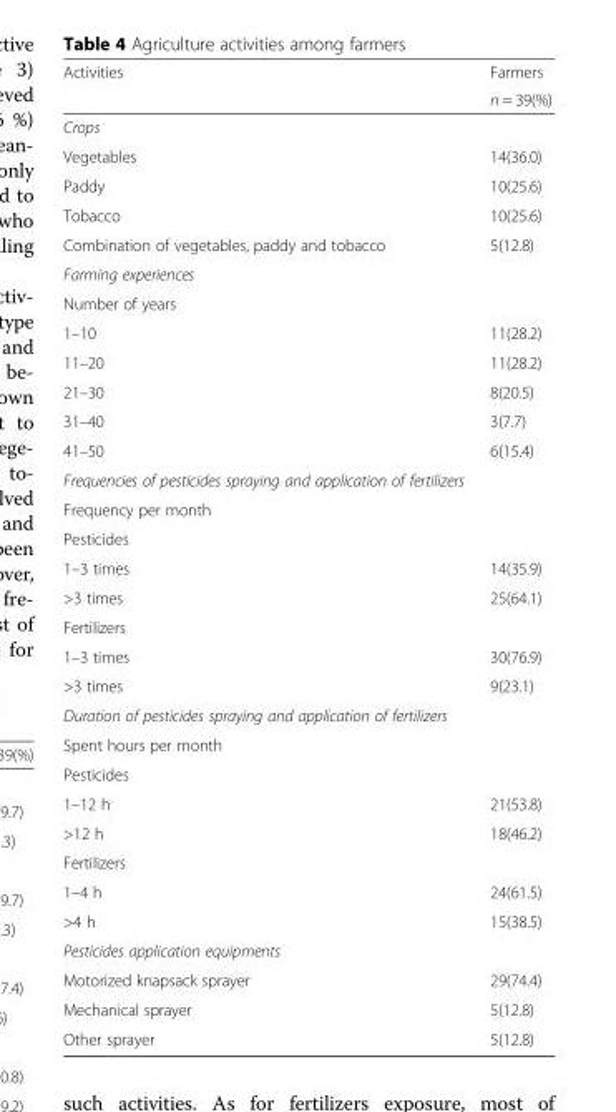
<table><thead><tr><td rowspan="2">Activities</td><td rowspan="2">Farmers n = 39(%)</td></tr><tr></tr></thead><tbody><tr><td colspan="2">Crops</td></tr><tr><td>Vegetables</td><td>14(36.0)</td></tr><tr><td>Paddy</td><td>10(25.6)</td></tr><tr><td>Tobacco</td><td>10(25.6)</td></tr><tr><td>Combination of vegetables, paddy and tobacco</td><td>5(12.8)</td></tr><tr><td colspan="2">Farming experiences</td></tr><tr><td colspan="2">Number of years</td></tr><tr><td>1–10</td><td>11(28.2)</td></tr><tr><td>11–20</td><td>11(28.2)</td></tr><tr><td>21–30</td><td>8(20.5)</td></tr><tr><td>31–40</td><td>3(7.7)</td></tr><tr><td>41–50</td><td>6(15.4)</td></tr><tr><td colspan="2">Frequencies of pesticides spraying and application of fertilizers</td></tr><tr><td colspan="2">Frequency per month</td></tr><tr><td colspan="2">Pesticides</td></tr><tr><td>1–3 times</td><td>14(35.9)</td></tr><tr><td>&gt;3 times</td><td>25(64.1)</td></tr><tr><td colspan="2">Fertilizers</td></tr><tr><td>1–3 times</td><td>30(76.9)</td></tr><tr><td>&gt;3 times</td><td>9(23.1)</td></tr><tr><td colspan="2">Duration of pesticides spraying and application of fertilizers</td></tr><tr><td colspan="2">Spent hours per month</td></tr><tr><td colspan="2">Pesticides</td></tr><tr><td>1–12 h</td><td>21(53.8)</td></tr><tr><td>&gt;12 h</td><td>18(46.2)</td></tr><tr><td colspan="2">Fertilizers</td></tr><tr><td>1–4 h</td><td>24(61.5)</td></tr><tr><td>&gt;4 h</td><td>15(38.5)</td></tr><tr><td colspan="2">Pesticides application equipments</td></tr><tr><td>Motorized knapsack sprayer</td><td>29(74.4)</td></tr><tr><td>Mechanical sprayer</td><td>5(12.8)</td></tr><tr><td>Other sprayer</td><td>5(12.8)</td></tr></tbody></table>